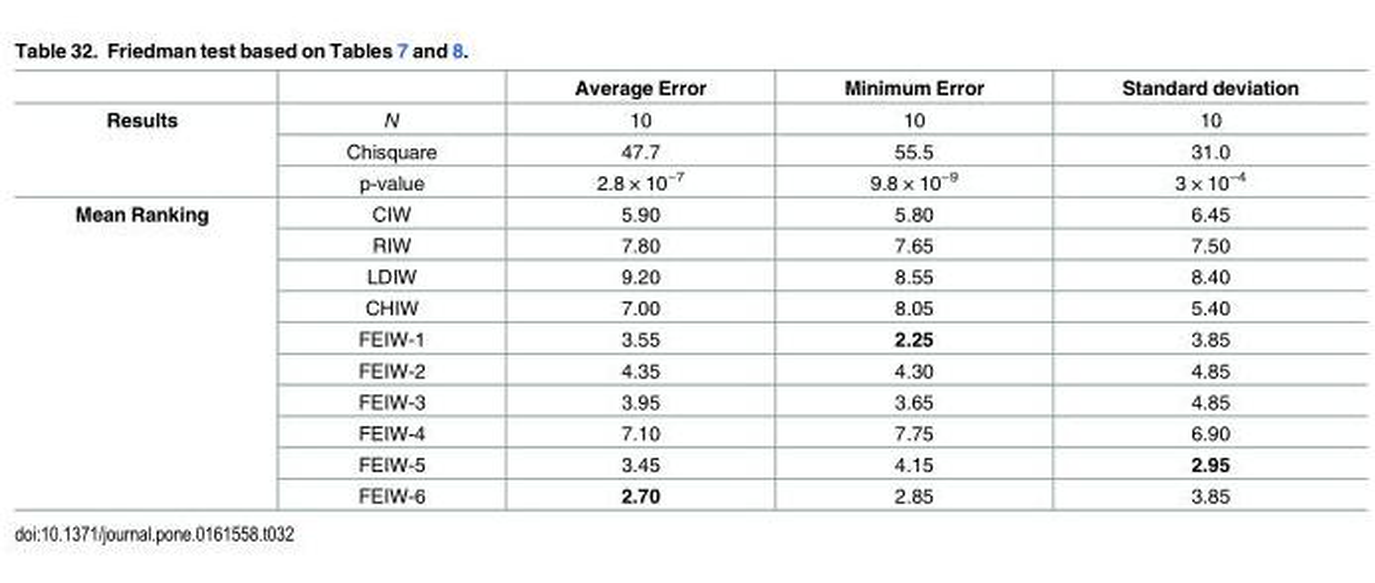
<table><thead><tr><td></td><td></td><td>Average Error</td><td>Minimum Error</td><td>Standard deviation</td></tr></thead><tbody><tr><td rowspan="3">Results</td><td>N</td><td>10</td><td>10</td><td>10</td></tr><tr><td>Chisquare</td><td>47.7</td><td>55.5</td><td>31.0</td></tr><tr><td>p-value</td><td>2.8 × 10<sup>−7</sup></td><td>9.8 × 10<sup>−9</sup></td><td>3 × 10<sup>−4</sup></td></tr><tr><td rowspan="10">Mean Ranking</td><td>CIW</td><td>5.90</td><td>5.80</td><td>6.45</td></tr><tr><td>RIW</td><td>7.80</td><td>7.65</td><td>7.50</td></tr><tr><td>LDIW</td><td>9.20</td><td>8.55</td><td>8.40</td></tr><tr><td>CHIW</td><td>7.00</td><td>8.05</td><td>5.40</td></tr><tr><td>FEIW-1</td><td>3.55</td><td>2.25</td><td>3.85</td></tr><tr><td>FEIW-2</td><td>4.35</td><td>4.30</td><td>4.85</td></tr><tr><td>FEIW-3</td><td>3.95</td><td>3.65</td><td>4.85</td></tr><tr><td>FEIW-4</td><td>7.10</td><td>7.75</td><td>6.90</td></tr><tr><td>FEIW-5</td><td>3.45</td><td>4.15</td><td>2.95</td></tr><tr><td>FEIW-6</td><td>2.70</td><td>2.85</td><td>3.85</td></tr></tbody></table>